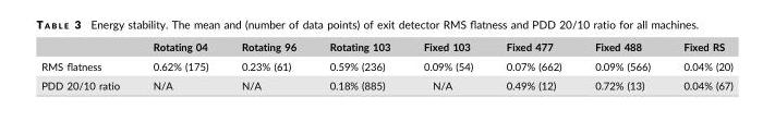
<table><thead><tr><td></td><td>Rotating 04</td><td>Rotating 96</td><td>Rotating 103</td><td>Fixed 103</td><td>Fixed 477</td><td>Fixed 488</td><td>Fixed RS</td></tr></thead><tbody><tr><td>RMS flatness</td><td>0.62% (175)</td><td>0.23% (61)</td><td>0.59% (236)</td><td>0.09% (54)</td><td>0.07% (662)</td><td>0.09% (566)</td><td>0.04% (20)</td></tr><tr><td>PDD 20/10 ratio</td><td>N/A</td><td>N/A</td><td>0.18% (885)</td><td>N/A</td><td>0.49% (12)</td><td>0.72% (13)</td><td>0.04% (67)</td></tr></tbody></table>